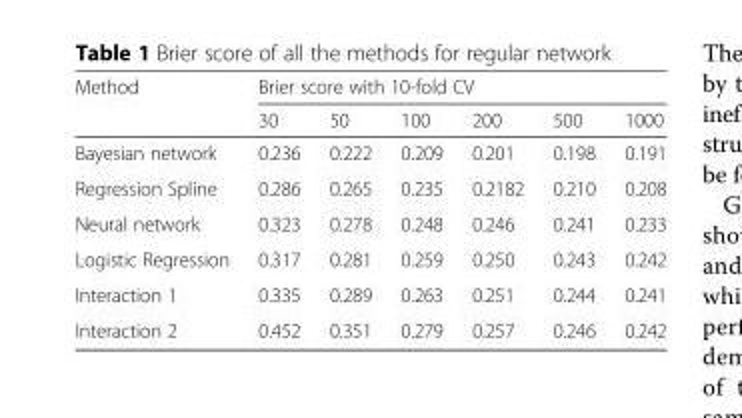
<table><thead><tr><td rowspan="2">Method</td><td colspan="6">Brier score with 10-fold CV</td></tr><tr><td>30</td><td>50</td><td>100</td><td>200</td><td>500</td><td>1000</td></tr></thead><tbody><tr><td>Bayesian network</td><td>0.236</td><td>0.222</td><td>0.209</td><td>0.201</td><td>0.198</td><td>0.191</td></tr><tr><td>Regression Spline</td><td>0.286</td><td>0.265</td><td>0.235</td><td>0.2182</td><td>0.210</td><td>0.208</td></tr><tr><td>Neural network</td><td>0.323</td><td>0.278</td><td>0.248</td><td>0.246</td><td>0.241</td><td>0.233</td></tr><tr><td>Logistic Regression</td><td>0.317</td><td>0.281</td><td>0.259</td><td>0.250</td><td>0.243</td><td>0.242</td></tr><tr><td>Interaction 1</td><td>0.335</td><td>0.289</td><td>0.263</td><td>0.251</td><td>0.244</td><td>0.241</td></tr><tr><td>Interaction 2</td><td>0.452</td><td>0.351</td><td>0.279</td><td>0.257</td><td>0.246</td><td>0.242</td></tr></tbody></table>